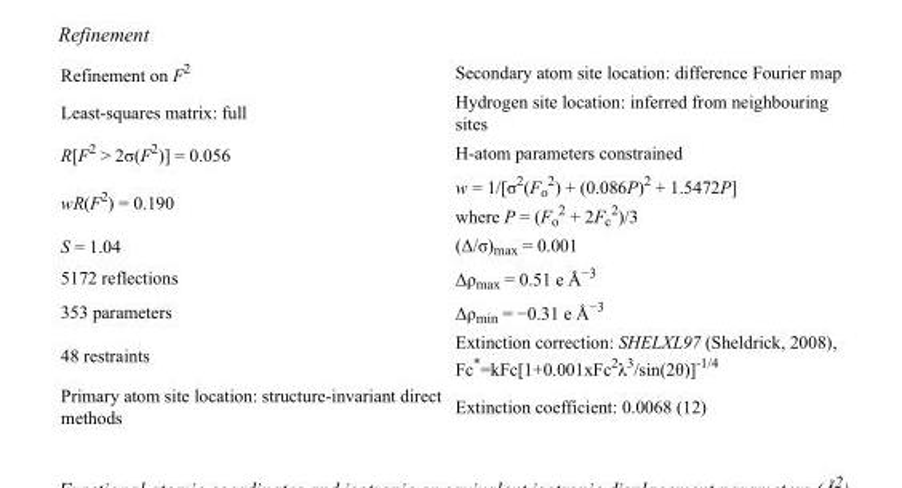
<table><tbody><tr><td>Refinement on F<sup>2</sup></td><td>Secondary atom site location: difference Fourier map</td></tr><tr><td>Least-squares matrix: full</td><td>Hydrogen site location: inferred from neighbouring sites</td></tr><tr><td>R[F<sup>2</sup> &gt; 2σ(F<sup>2</sup>)] = 0.056</td><td>H-atom parameters constrained</td></tr><tr><td>wR(F<sup>2</sup>) = 0.190</td><td>w = 1/[σ<sup>2</sup>(F<sub>o</sub> <sup>2</sup>) + (0.086P)<sup>2</sup> + 1.5472P] where P = (F<sub>o</sub> <sup>2</sup> + 2F<sub>c</sub> <sup>2</sup>)/3</td></tr><tr><td>S = 1.04</td><td>(Δ/σ)<sub>max</sub> = 0.001</td></tr><tr><td>5172 reflections</td><td>Δρ<sub>max</sub> = 0.51 e Å<sup>−3</sup></td></tr><tr><td>353 parameters</td><td>Δρ<sub>min</sub> = −0.31 e Å<sup>−3</sup></td></tr><tr><td>48 restraints</td><td>Extinction correction: SHELXL97 (Sheldrick, 2008), Fc*=kFc[1+0.001xFc<sup>2</sup>λ<sup>3</sup>/sin(2θ)]<sup>-1/4</sup></td></tr><tr><td>Primary atom site location: structure-invariant direct methods</td><td>Extinction coefficient: 0.0068 (12)</td></tr></tbody></table>